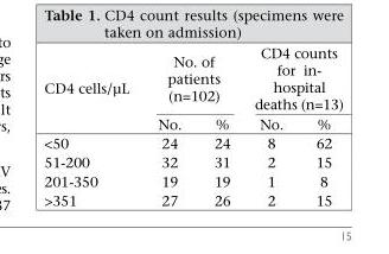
<table><thead><tr><td rowspan="2">CD4 cells/µL</td><td colspan="2">No. of patients (n=102)</td><td colspan="2">CD4 counts for in- hospital deaths (n=13)</td></tr><tr><td>No.</td><td>%</td><td>No.</td><td>%</td></tr></thead><tbody><tr><td>&lt;50</td><td>24</td><td>24</td><td>8</td><td>62</td></tr><tr><td>51-200</td><td>32</td><td>31</td><td>2</td><td>15</td></tr><tr><td>201-350</td><td>19</td><td>19</td><td>1</td><td>8</td></tr><tr><td>&gt;351</td><td>27</td><td>26</td><td>2</td><td>15</td></tr></tbody></table>